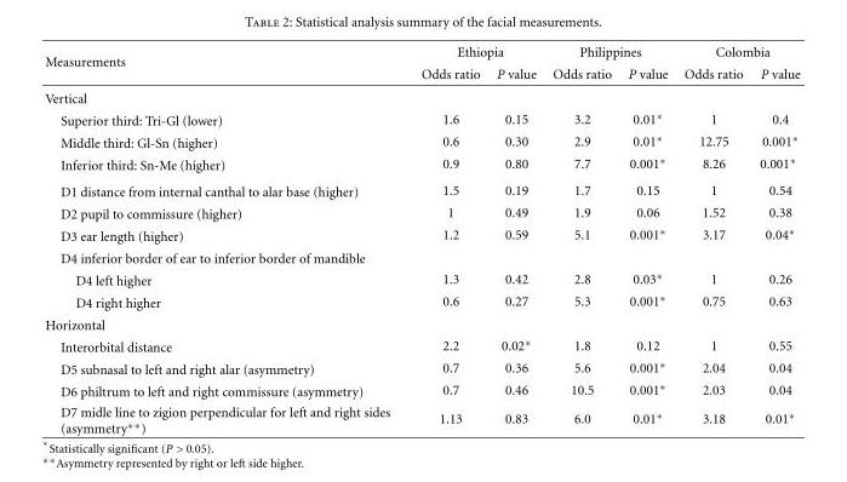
<table><thead><tr><td rowspan="2">Measurements</td><td colspan="2">Ethiopia</td><td colspan="2">Philippines</td><td colspan="2">Colombia</td></tr><tr><td>Odds ratio</td><td>P value</td><td>Odds ratio</td><td>P value</td><td>Odds ratio</td><td>P value</td></tr></thead><tbody><tr><td colspan="7">Vertical</td></tr><tr><td>Superior third: Tri-Gl (lower)</td><td>1.6</td><td>0.15</td><td>3.2</td><td>0.01∗</td><td>1</td><td>0.4</td></tr><tr><td>Middle third: Gl-Sn (higher)</td><td>0.6</td><td>0.30</td><td>2.9</td><td>0.01∗</td><td>12.75</td><td>0.001∗</td></tr><tr><td>Inferior third: Sn-Me (higher)</td><td>0.9</td><td>0.80</td><td>7.7</td><td>0.001∗</td><td>8.26</td><td>0.001∗</td></tr><tr><td>D1 distance from internal canthal to alar base (higher)</td><td>1.5</td><td>0.19</td><td>1.7</td><td>0.15</td><td>1</td><td>0.54</td></tr><tr><td>D2 pupil to commissure (higher)</td><td>1</td><td>0.49</td><td>1.9</td><td>0.06</td><td>1.52</td><td>0.38</td></tr><tr><td>D3 ear length (higher)</td><td>1.2</td><td>0.59</td><td>5.1</td><td>0.001∗</td><td>3.17</td><td>0.04∗</td></tr><tr><td colspan="7">D4 inferior border of ear to inferior border of mandible</td></tr><tr><td>D4 left higher</td><td>1.3</td><td>0.42</td><td>2.8</td><td>0.03∗</td><td>1</td><td>0.26</td></tr><tr><td>D4 right higher</td><td>0.6</td><td>0.27</td><td>5.3</td><td>0.001∗</td><td>0.75</td><td>0.63</td></tr><tr><td colspan="7">Horizontal</td></tr><tr><td>Interorbital distance</td><td>2.2</td><td>0.02∗</td><td>1.8</td><td>0.12</td><td>1</td><td>0.55</td></tr><tr><td>D5 subnasal to left and right alar (asymmetry)</td><td>0.7</td><td>0.36</td><td>5.6</td><td>0.001∗</td><td>2.04</td><td>0.04</td></tr><tr><td>D6 philtrum to left and right commissure (asymmetry)</td><td>0.7</td><td>0.46</td><td>10.5</td><td>0.001∗</td><td>2.03</td><td>0.04</td></tr><tr><td>D7 midle line to zigion perpendicular for left and right sides (asymmetry∗∗)</td><td>1.13</td><td>0.83</td><td>6.0</td><td>0.01∗</td><td>3.18</td><td>0.01∗</td></tr></tbody></table>